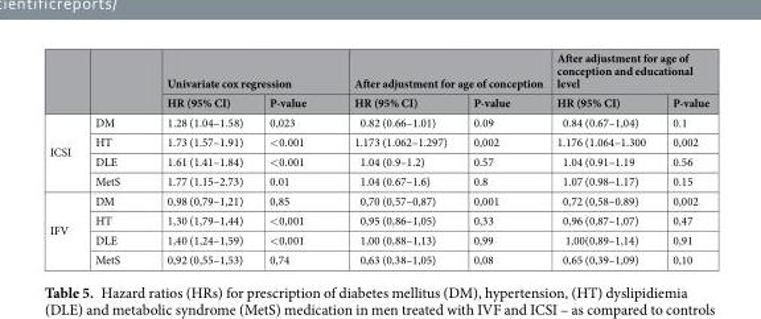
<table><thead><tr><td rowspan="2"></td><td rowspan="2"></td><td colspan="2">Univariate cox regression</td><td colspan="2">After adjustment for age of conception</td><td colspan="2">After adjustment for age of conception and educational level</td></tr><tr><td>HR (95% CI)</td><td>P-value</td><td>HR (95% CI)</td><td>P-value</td><td>HR (95% CI)</td><td>P-value</td></tr></thead><tbody><tr><td rowspan="4">ICSI</td><td>DM</td><td>1.28 (1.04–1.58)</td><td>0,023</td><td>0.82 (0.66–1.01)</td><td>0.09</td><td>0.84 (0.67–1,04)</td><td>0.1</td></tr><tr><td>HT</td><td>1.73 (1.57–1.91)</td><td>&lt;0.001</td><td>1.173 (1.062–1.297)</td><td>0,002</td><td>1.176 (1.064–1.300</td><td>0,002</td></tr><tr><td>DLE</td><td>1.61 (1.41–1.84)</td><td>&lt;0.001</td><td>1.04 (0.9–1.2)</td><td>0.57</td><td>1.04 (0.91–1.19</td><td>0.56</td></tr><tr><td>MetS</td><td>1.77 (1.15–2.73)</td><td>0.01</td><td>1.04 (0.67–1.6)</td><td>0.8</td><td>1.07 (0.98–1.17)</td><td>0.15</td></tr><tr><td rowspan="4">IFV</td><td>DM</td><td>0,98 (0,79–1,21)</td><td>0,85</td><td>0,70 (0,57–0,87)</td><td>0,001</td><td>0,72 (0,58–0.89)</td><td>0,002</td></tr><tr><td>HT</td><td>1,30 (1,79–1,44)</td><td>&lt;0,001</td><td>0,95 (0,86–1,05)</td><td>0,33</td><td>0,96 (0,87–1,07)</td><td>0,47</td></tr><tr><td>DLE</td><td>1,40 (1,24–1,59)</td><td>&lt;0,001</td><td>1,00 (0,88–1,13)</td><td>0,99</td><td>1,00(0,89–1,14)</td><td>0,91</td></tr><tr><td>MetS</td><td>0,92 (0,55–1,53)</td><td>0,74</td><td>0,63 (0,38–1,05)</td><td>0,08</td><td>0,65 (0,39–1,09)</td><td>0,10</td></tr></tbody></table>